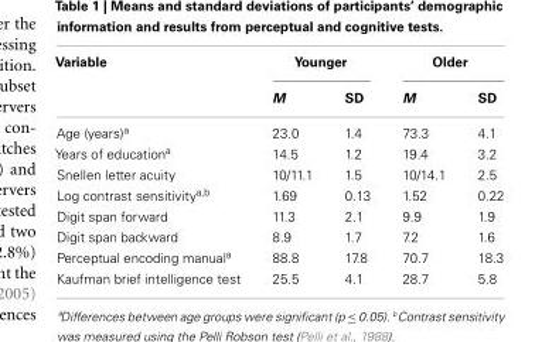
<table><thead><tr><td rowspan="2">Variable</td><td colspan="2">Younger</td><td colspan="2">Older</td></tr><tr><td>M</td><td>SD</td><td>M</td><td>SD</td></tr></thead><tbody><tr><td>Age (years)<sup>a</sup></td><td>23.0</td><td>1.4</td><td>73.3</td><td>4.1</td></tr><tr><td>Years of education<sup>a</sup></td><td>14.5</td><td>1.2</td><td>19.4</td><td>3.2</td></tr><tr><td>Snellen letter acuity</td><td>10/11.1</td><td>1.5</td><td>10/14.1</td><td>2.5</td></tr><tr><td>Log contrast sensitivity<sup>a,b</sup></td><td>1.69</td><td>0.13</td><td>1.52</td><td>0.22</td></tr><tr><td>Digit span forward</td><td>11.3</td><td>2.1</td><td>9.9</td><td>1.9</td></tr><tr><td>Digit span backward</td><td>8.9</td><td>1.7</td><td>7.2</td><td>1.6</td></tr><tr><td>Perceptual encoding manual<sup>a</sup></td><td>88.8</td><td>17.8</td><td>70.7</td><td>18.3</td></tr><tr><td>Kaufman brief intelligence test</td><td>25.5</td><td>4.1</td><td>28.7</td><td>5.8</td></tr></tbody></table>